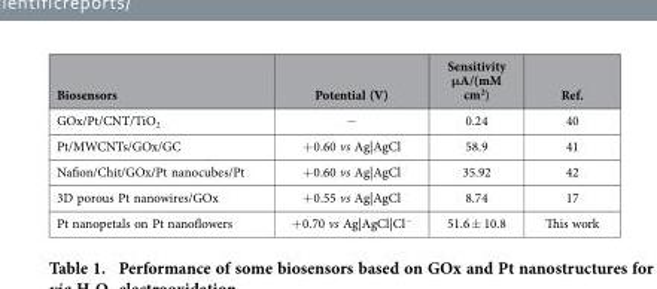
<table><thead><tr><td>Biosensors</td><td>Potential (V)</td><td>Sensitivity μA/(mM cm<sup>2</sup>)</td><td>Ref.</td></tr></thead><tbody><tr><td>GOx/Pt/CNT/TiO<sub>2</sub></td><td>−</td><td>0.24</td><td>40</td></tr><tr><td>Pt/MWCNTs/GOx/GC</td><td>+ 0.60 vs Ag|AgCl</td><td>58.9</td><td>41</td></tr><tr><td>Nafion/Chit/GOx/Pt nanocubes/Pt</td><td>+ 0.60 vs Ag|AgCl</td><td>35.92</td><td>42</td></tr><tr><td>3D porous Pt nanowires/GOx</td><td>+ 0.55 vs Ag|AgCl</td><td>8.74</td><td>17</td></tr><tr><td>Pt nanopetals on Pt nanoflowers</td><td>+ 0.70 vs Ag|AgCl|Cl<sup>−</sup></td><td>51.6 ± 10.8</td><td>This work</td></tr></tbody></table>